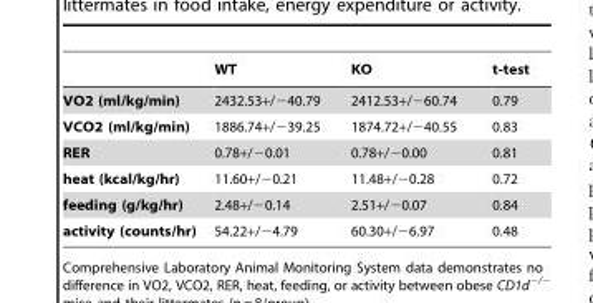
<table><thead><tr><td></td><td>WT</td><td>KO</td><td>t-test</td></tr></thead><tbody><tr><td>VO2 (ml/kg/min)</td><td>2432.53+/−40.79</td><td>2412.53+/−60.74</td><td>0.79</td></tr><tr><td>VCO2 (ml/kg/min)</td><td>1886.74+/−39.25</td><td>1874.72+/−40.55</td><td>0.83</td></tr><tr><td>RER</td><td>0.78+/−0.01</td><td>0.78+/−0.00</td><td>0.81</td></tr><tr><td>heat (kcal/kg/hr)</td><td>11.60+/−0.21</td><td>11.48+/−0.28</td><td>0.72</td></tr><tr><td>feeding (g/kg/hr)</td><td>2.48+/−0.14</td><td>2.51+/−0.07</td><td>0.84</td></tr><tr><td>activity (counts/hr)</td><td>54.22+/−4.79</td><td>60.30+/−6.97</td><td>0.48</td></tr></tbody></table>